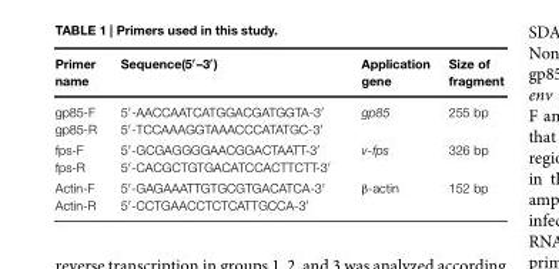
<table><thead><tr><td>Primer name</td><td>Sequence(5′–3′)</td><td>Application gene</td><td>Size of fragment</td></tr></thead><tbody><tr><td>gp85-F gp85-R</td><td>5′-AACCAATCATGGACGATGGTA-3′ 5′-TCCAAAGGTAAACCCATATGC-3′</td><td>gp85</td><td>255 bp</td></tr><tr><td>fps-F fps-R</td><td>5′-GCGAGGGGAACGGACTAATT-3′ 5′-CACGCTGTGACATCCACTTCTT-3′</td><td>v-fps</td><td>326 bp</td></tr><tr><td>Actin-F Actin-R</td><td>5′-GAGAAATTGTGCGTGACATCA-3′ 5′-CCTGAACCTCTCATTGCCA-3′</td><td>β-actin</td><td>152 bp</td></tr></tbody></table>